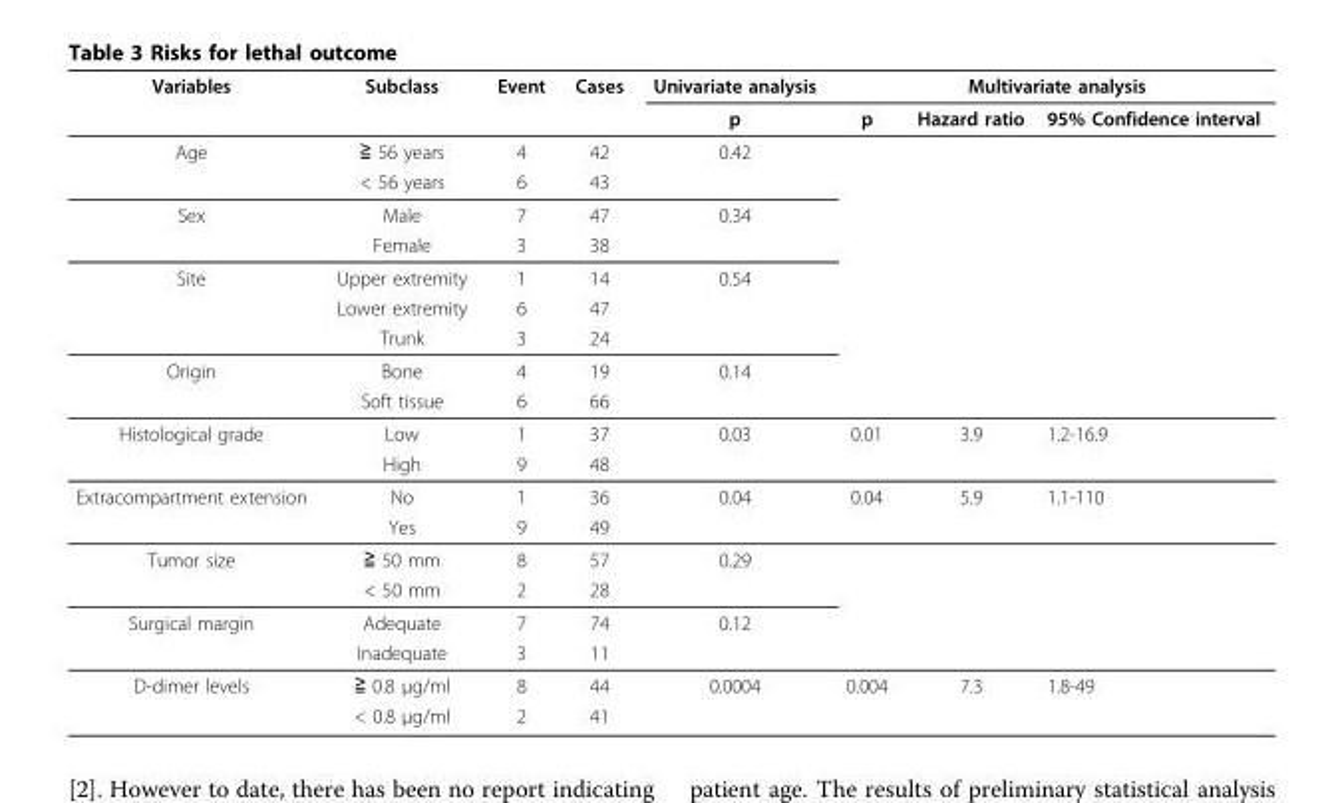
<table><thead><tr><td rowspan="2">Variables</td><td rowspan="2">Subclass</td><td rowspan="2">Event</td><td rowspan="2">Cases</td><td rowspan="2">Univariate analysis p</td><td colspan="3">Multivariate analysis</td></tr><tr><td>p</td><td>Hazard ratio</td><td>95% Confidence interval</td></tr></thead><tbody><tr><td rowspan="2">Age</td><td>≧ 56 years</td><td>4</td><td>42</td><td>0.42</td><td></td><td></td><td></td></tr><tr><td>&lt; 56 years</td><td>6</td><td>43</td><td></td><td></td><td></td><td></td></tr><tr><td rowspan="2">Sex</td><td>Male</td><td>7</td><td>47</td><td>0.34</td><td></td><td></td><td></td></tr><tr><td>Female</td><td>3</td><td>38</td><td></td><td></td><td></td><td></td></tr><tr><td rowspan="3">Site</td><td>Upper extremity</td><td>1</td><td>14</td><td>0.54</td><td></td><td></td><td></td></tr><tr><td>Lower extremity</td><td>6</td><td>47</td><td></td><td></td><td></td><td></td></tr><tr><td>Trunk</td><td>3</td><td>24</td><td></td><td></td><td></td><td></td></tr><tr><td rowspan="2">Origin</td><td>Bone</td><td>4</td><td>19</td><td>0.14</td><td></td><td></td><td></td></tr><tr><td>Soft tissue</td><td>6</td><td>66</td><td></td><td></td><td></td><td></td></tr><tr><td rowspan="2">Histological grade</td><td>Low</td><td>1</td><td>37</td><td>0.03</td><td>0.01</td><td>3.9</td><td>1.2-16.9</td></tr><tr><td>High</td><td>9</td><td>48</td><td></td><td></td><td></td><td></td></tr><tr><td rowspan="2">Extracompartment extension</td><td>No</td><td>1</td><td>36</td><td>0.04</td><td>0.04</td><td>5.9</td><td>1.1-110</td></tr><tr><td>Yes</td><td>9</td><td>49</td><td></td><td></td><td></td><td></td></tr><tr><td rowspan="2">Tumor size</td><td>≧ 50 mm</td><td>8</td><td>57</td><td>0.29</td><td></td><td></td><td></td></tr><tr><td>&lt; 50 mm</td><td>2</td><td>28</td><td></td><td></td><td></td><td></td></tr><tr><td rowspan="2">Surgical margin</td><td>Adequate</td><td>7</td><td>74</td><td>0.12</td><td></td><td></td><td></td></tr><tr><td>Inadequate</td><td>3</td><td>11</td><td></td><td></td><td></td><td></td></tr><tr><td rowspan="2">D-dimer levels</td><td>≧ 0.8 μg/ml</td><td>8</td><td>44</td><td>0.0004</td><td>0.004</td><td>7.3</td><td>1.8-49</td></tr><tr><td>&lt; 0.8 μg/ml</td><td>2</td><td>41</td><td></td><td></td><td></td><td></td></tr></tbody></table>